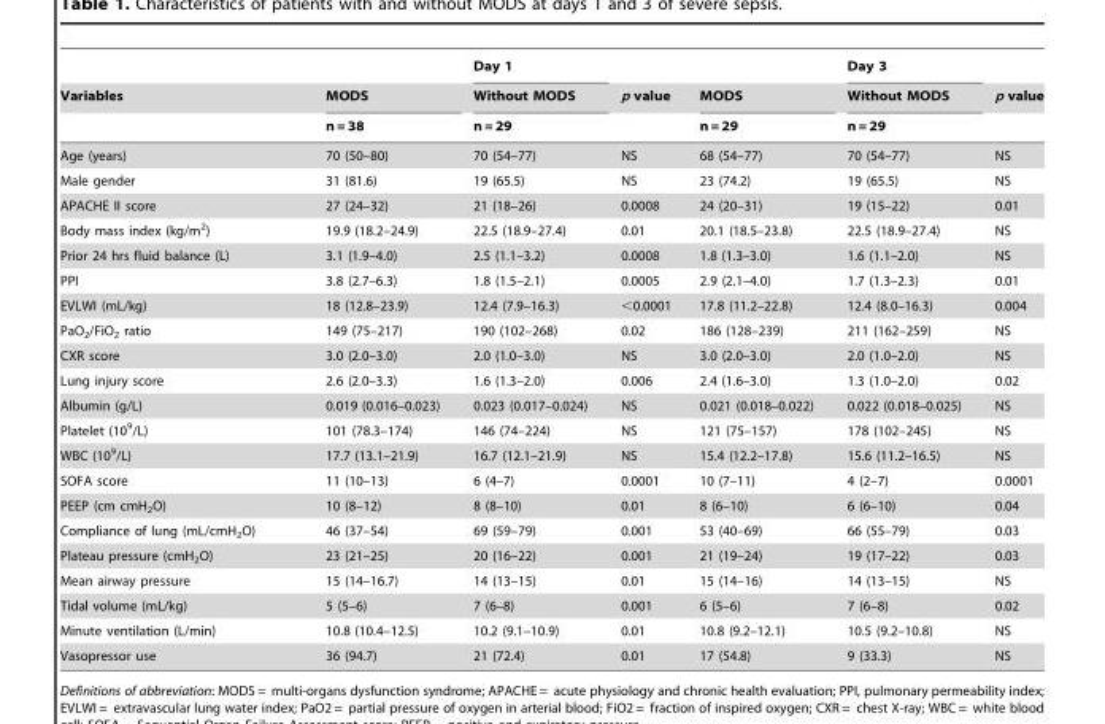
<table><thead><tr><td rowspan="3">Variables</td><td rowspan="3">MODS n = 38</td><td rowspan="3">Day 1 Without MODS n = 29</td><td rowspan="3">p value</td><td rowspan="3">MODS n = 29</td><td rowspan="3">Day 3 Without MODS n = 29</td><td rowspan="3">p value</td></tr><tr></tr><tr></tr></thead><tbody><tr><td>Age (years)</td><td>70 (50–80)</td><td>70 (54–77)</td><td>NS</td><td>68 (54–77)</td><td>70 (54–77)</td><td>NS</td></tr><tr><td>Male gender</td><td>31 (81.6)</td><td>19 (65.5)</td><td>NS</td><td>23 (74.2)</td><td>19 (65.5)</td><td>NS</td></tr><tr><td>APACHE II score</td><td>27 (24–32)</td><td>21 (18–26)</td><td>0.0008</td><td>24 (20–31)</td><td>19 (15–22)</td><td>0.01</td></tr><tr><td>Body mass index (kg/m<sup>2</sup>)</td><td>19.9 (18.2–24.9)</td><td>22.5 (18.9–27.4)</td><td>0.01</td><td>20.1 (18.5–23.8)</td><td>22.5 (18.9–27.4)</td><td>NS</td></tr><tr><td>Prior 24 hrs fluid balance (L)</td><td>3.1 (1.9–4.0)</td><td>2.5 (1.1–3.2)</td><td>0.0008</td><td>1.8 (1.3–3.0)</td><td>1.6 (1.1–2.0)</td><td>NS</td></tr><tr><td>PPI</td><td>3.8 (2.7–6.3)</td><td>1.8 (1.5–2.1)</td><td>0.0005</td><td>2.9 (2.1–4.0)</td><td>1.7 (1.3–2.3)</td><td>0.01</td></tr><tr><td>EVLWI (mL/kg)</td><td>18 (12.8–23.9)</td><td>12.4 (7.9–16.3)</td><td>&lt;0.0001</td><td>17.8 (11.2–22.8)</td><td>12.4 (8.0–16.3)</td><td>0.004</td></tr><tr><td>PaO<sub>2</sub>/FiO<sub>2</sub> ratio</td><td>149 (75–217)</td><td>190 (102–268)</td><td>0.02</td><td>186 (128–239)</td><td>211 (162–259)</td><td>NS</td></tr><tr><td>CXR score</td><td>3.0 (2.0–3.0)</td><td>2.0 (1.0–3.0)</td><td>NS</td><td>3.0 (2.0–3.0)</td><td>2.0 (1.0–2.0)</td><td>NS</td></tr><tr><td>Lung injury score</td><td>2.6 (2.0–3.3)</td><td>1.6 (1.3–2.0)</td><td>0.006</td><td>2.4 (1.6–3.0)</td><td>1.3 (1.0–2.0)</td><td>0.02</td></tr><tr><td>Albumin (g/L)</td><td>0.019 (0.016–0.023)</td><td>0.023 (0.017–0.024)</td><td>NS</td><td>0.021 (0.018–0.022)</td><td>0.022 (0.018–0.025)</td><td>NS</td></tr><tr><td>Platelet (10<sup>9</sup>/L)</td><td>101 (78.3–174)</td><td>146 (74–224)</td><td>NS</td><td>121 (75–157)</td><td>178 (102–245)</td><td>NS</td></tr><tr><td>WBC (10<sup>9</sup>/L)</td><td>17.7 (13.1–21.9)</td><td>16.7 (12.1–21.9)</td><td>NS</td><td>15.4 (12.2–17.8)</td><td>15.6 (11.2–16.5)</td><td>NS</td></tr><tr><td>SOFA score</td><td>11 (10–13)</td><td>6 (4–7)</td><td>0.0001</td><td>10 (7–11)</td><td>4 (2–7)</td><td>0.0001</td></tr><tr><td>PEEP (cm cmH<sub>2</sub>O)</td><td>10 (8–12)</td><td>8 (8–10)</td><td>0.01</td><td>8 (6–10)</td><td>6 (6–10)</td><td>0.04</td></tr><tr><td>Compliance of lung (mL/cmH<sub>2</sub>O)</td><td>46 (37–54)</td><td>69 (59–79)</td><td>0.001</td><td>53 (40–69)</td><td>66 (55–79)</td><td>0.03</td></tr><tr><td>Plateau pressure (cmH<sub>2</sub>O)</td><td>23 (21–25)</td><td>20 (16–22)</td><td>0.001</td><td>21 (19–24)</td><td>19 (17–22)</td><td>0.03</td></tr><tr><td>Mean airway pressure</td><td>15 (14–16.7)</td><td>14 (13–15)</td><td>0.01</td><td>15 (14–16)</td><td>14 (13–15)</td><td>NS</td></tr><tr><td>Tidal volume (mL/kg)</td><td>5 (5–6)</td><td>7 (6–8)</td><td>0.001</td><td>6 (5–6)</td><td>7 (6–8)</td><td>0.02</td></tr><tr><td>Minute ventilation (L/min)</td><td>10.8 (10.4–12.5)</td><td>10.2 (9.1–10.9)</td><td>0.01</td><td>10.8 (9.2–12.1)</td><td>10.5 (9.2–10.8)</td><td>NS</td></tr><tr><td>Vasopressor use</td><td>36 (94.7)</td><td>21 (72.4)</td><td>0.01</td><td>17 (54.8)</td><td>9 (33.3)</td><td>NS</td></tr></tbody></table>